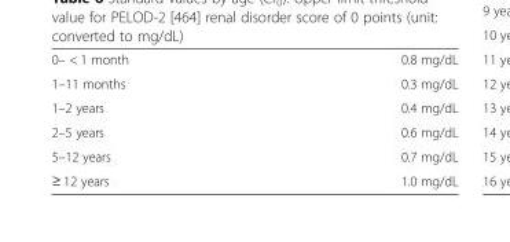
<table><tbody><tr><td>0– &lt; 1 month</td><td>0.8 mg/dL</td></tr><tr><td>1–11 months</td><td>0.3 mg/dL</td></tr><tr><td>1–2 years</td><td>0.4 mg/dL</td></tr><tr><td>2–5 years</td><td>0.6 mg/dL</td></tr><tr><td>5–12 years</td><td>0.7 mg/dL</td></tr><tr><td>≥ 12 years</td><td>1.0 mg/dL</td></tr></tbody></table>